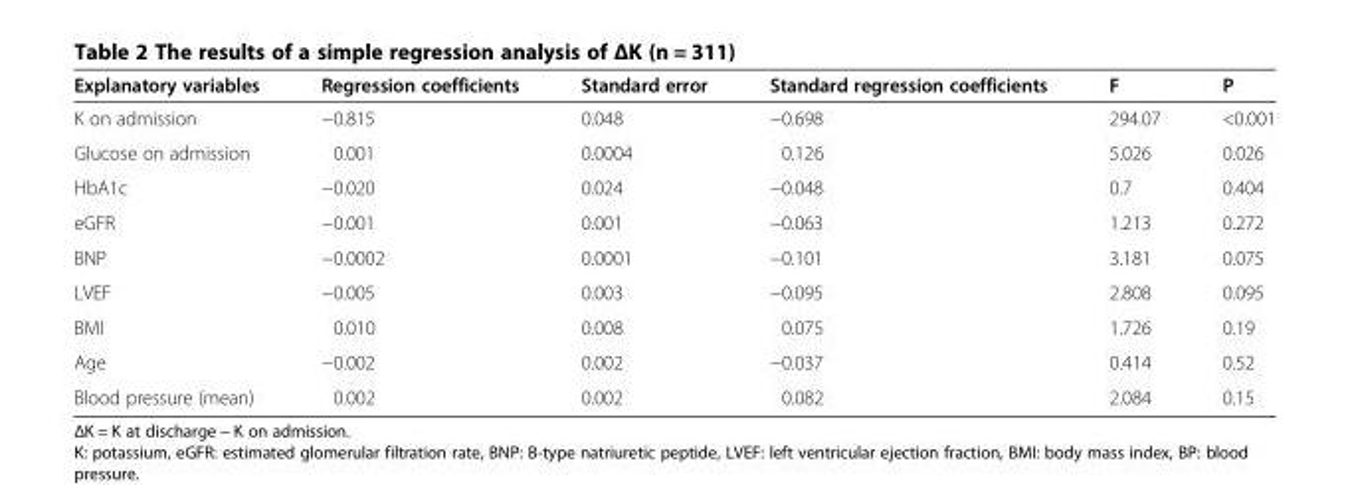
<table><thead><tr><td>Explanatory variables</td><td>Regression coefficients</td><td>Standard error</td><td>Standard regression coefficients</td><td>F</td><td>P</td></tr></thead><tbody><tr><td>K on admission</td><td>−0.815</td><td>0.048</td><td>−0.698</td><td>294.07</td><td>&lt;0.001</td></tr><tr><td>Glucose on admission</td><td>0.001</td><td>0.0004</td><td>0.126</td><td>5.026</td><td>0.026</td></tr><tr><td>HbA1c</td><td>−0.020</td><td>0.024</td><td>−0.048</td><td>0.7</td><td>0.404</td></tr><tr><td>eGFR</td><td>−0.001</td><td>0.001</td><td>−0.063</td><td>1.213</td><td>0.272</td></tr><tr><td>BNP</td><td>−0.0002</td><td>0.0001</td><td>−0.101</td><td>3.181</td><td>0.075</td></tr><tr><td>LVEF</td><td>−0.005</td><td>0.003</td><td>−0.095</td><td>2.808</td><td>0.095</td></tr><tr><td>BMI</td><td>0.010</td><td>0.008</td><td>0.075</td><td>1.726</td><td>0.19</td></tr><tr><td>Age</td><td>−0.002</td><td>0.002</td><td>−0.037</td><td>0.414</td><td>0.52</td></tr><tr><td>Blood pressure (mean)</td><td>0.002</td><td>0.002</td><td>0.082</td><td>2.084</td><td>0.15</td></tr></tbody></table>